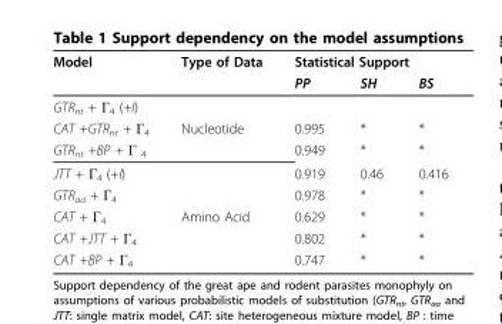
<table><thead><tr><td rowspan="2">Model</td><td rowspan="2">Type of Data</td><td colspan="3">Statistical Support</td></tr><tr><td>PP</td><td>SH</td><td>BS</td></tr></thead><tbody><tr><td colspan="5">GTR<sub>nt</sub> + Γ<sub>4</sub> (+I)</td></tr><tr><td>CAT +GTR<sub>nt</sub> + Γ<sub>4</sub></td><td>Nucleotide</td><td>0.995</td><td>*</td><td>*</td></tr><tr><td>GTR<sub>nt</sub> +BP + Γ <sub>4</sub></td><td></td><td>0.949</td><td>*</td><td>*</td></tr><tr><td>JTT + Γ<sub>4</sub> (+I)</td><td></td><td>0.919</td><td>0.46</td><td>0.416</td></tr><tr><td>GTR<sub>aa</sub> + Γ<sub>4</sub></td><td></td><td>0.978</td><td>*</td><td>*</td></tr><tr><td>CAT + Γ<sub>4</sub></td><td>Amino Acid</td><td>0.629</td><td>*</td><td>*</td></tr><tr><td>CAT +JTT + Γ<sub>4</sub></td><td></td><td>0.802</td><td>*</td><td>*</td></tr><tr><td>CAT +BP + Γ<sub>4</sub></td><td></td><td>0.747</td><td>*</td><td>*</td></tr></tbody></table>